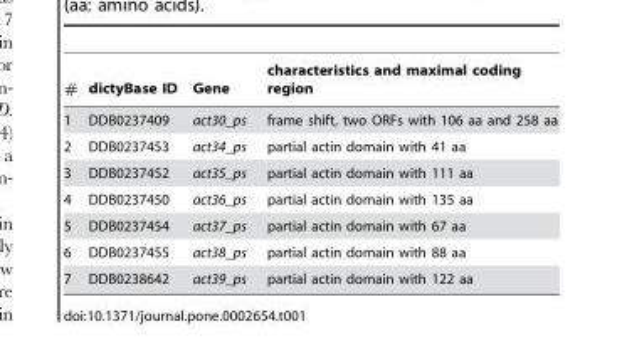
<table><thead><tr><td>#</td><td>dictyBase ID</td><td>Gene</td><td>characteristics and maximal coding region</td></tr></thead><tbody><tr><td>1</td><td>DDB0237409</td><td>act30_ps</td><td>frame shift, two ORFs with 106 aa and 258 aa</td></tr><tr><td>2</td><td>DDB0237453</td><td>act34_ps</td><td>partial actin domain with 41 aa</td></tr><tr><td>3</td><td>DDB0237452</td><td>act35_ps</td><td>partial actin domain with 111 aa</td></tr><tr><td>4</td><td>DDB0237450</td><td>act36_ps</td><td>partial actin domain with 135 aa</td></tr><tr><td>5</td><td>DDB0237454</td><td>act37_ps</td><td>partial actin domain with 67 aa</td></tr><tr><td>6</td><td>DDB0237455</td><td>act38_ps</td><td>partial actin domain with 88 aa</td></tr><tr><td>7</td><td>DDB0238642</td><td>act39_ps</td><td>partial actin domain with 122 aa</td></tr></tbody></table>